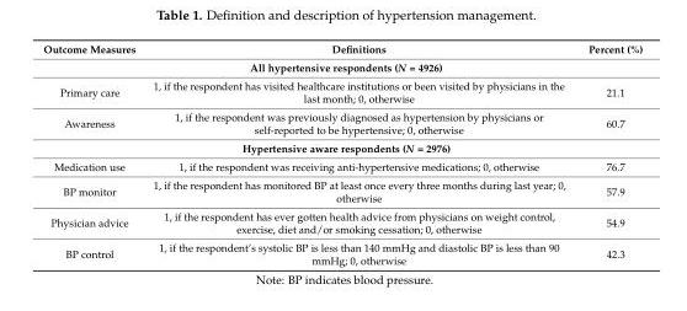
<table><thead><tr><td>Outcome Measures</td><td>Definitions</td><td>Percent (%)</td></tr></thead><tbody><tr><td colspan="3">All hypertensive respondents (N = 4926)</td></tr><tr><td>Primary care</td><td>1, if the respondent has visited healthcare institutions or been visited by physicians in the last month; 0, otherwise</td><td>21.1</td></tr><tr><td>Awareness</td><td>1, if the respondent was previously diagnosed as hypertension by physicians or self-reported to be hypertensive; 0, otherwise</td><td>60.7</td></tr><tr><td colspan="3">Hypertensive aware respondents (N = 2976)</td></tr><tr><td>Medication use</td><td>1, if the respondent was receiving anti-hypertensive medications; 0, otherwise</td><td>76.7</td></tr><tr><td>BP monitor</td><td>1, if the respondent has monitored BP at least once every three months during last year; 0, otherwise</td><td>57.9</td></tr><tr><td>Physician advice</td><td>1, if the respondent has ever gotten health advice from physicians on weight control, exercise, diet and/or smoking cessation; 0, otherwise</td><td>54.9</td></tr><tr><td>BP control</td><td>1, if the respondent’s systolic BP is less than 140 mmHg and diastolic BP is less than 90 mmHg; 0, otherwise</td><td>42.3</td></tr></tbody></table>